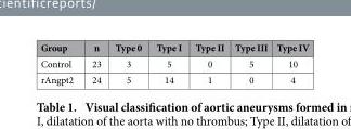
<table><thead><tr><td>Group</td><td>n</td><td>Type 0</td><td>Type I</td><td>Type II</td><td>Type III</td><td>Type IV</td></tr></thead><tbody><tr><td>Control</td><td>23</td><td>3</td><td>5</td><td>0</td><td>5</td><td>10</td></tr><tr><td>rAngpt2</td><td>24</td><td>5</td><td>14</td><td>1</td><td>0</td><td>4</td></tr></tbody></table>